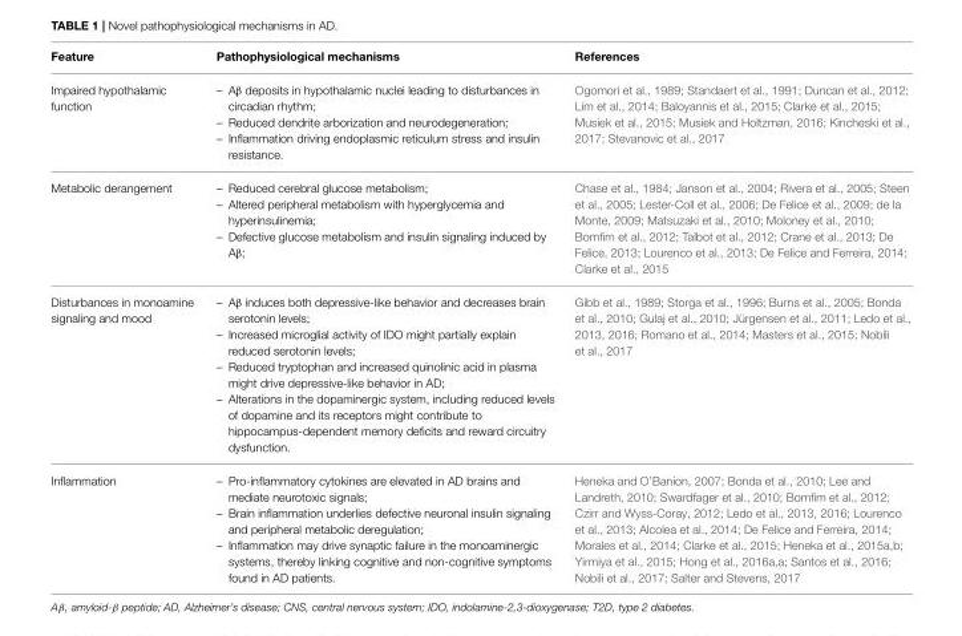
<table><thead><tr><td>Feature</td><td>Pathophysiological mechanisms</td><td>References</td></tr></thead><tbody><tr><td>Impaired hypothalamic function</td><td>– Aβ deposits in hypothalamic nuclei leading to disturbances in circadian rhythm; – Reduced dendrite arborization and neurodegeneration; – Inflammation driving endoplasmic reticulum stress and insulin resistance.</td><td>Ogomori et al., 1989; Standaert et al., 1991; Duncan et al., 2012; Lim et al., 2014; Baloyannis et al., 2015; Clarke et al., 2015; Musiek et al., 2015; Musiek and Holtzman, 2016; Kincheski et al., 2017; Stevanovic et al., 2017</td></tr><tr><td>Metabolic derangement</td><td>– Reduced cerebral glucose metabolism; – Altered peripheral metabolism with hyperglycemia and hyperinsulinemia; – Defective glucose metabolism and insulin signaling induced by Aβ;</td><td>Chase et al., 1984; Janson et al., 2004; Rivera et al., 2005; Steen et al., 2005; Lester-Coll et al., 2006; De Felice et al., 2009; de la Monte, 2009; Matsuzaki et al., 2010; Moloney et al., 2010; Bomfim et al., 2012; Talbot et al., 2012; Crane et al., 2013; De Felice, 2013; Lourenco et al., 2013; De Felice and Ferreira, 2014; Clarke et al., 2015</td></tr><tr><td>Disturbances in monoamine signaling and mood</td><td>– Aβ induces both depressive-like behavior and decreases brain serotonin levels; – Increased microglial activity of IDO might partially explain reduced serotonin levels; – Reduced tryptophan and increased quinolinic acid in plasma might drive depressive-like behavior in AD; – Alterations in the dopaminergic system, including reduced levels of dopamine and its receptors might contribute to hippocampus-dependent memory deficits and reward circuitry dysfunction.</td><td>Gibb et al., 1989; Storga et al., 1996; Burns et al., 2005; Bonda et al., 2010; Gulaj et al., 2010; Jürgensen et al., 2011; Ledo et al., 2013, 2016; Romano et al., 2014; Masters et al., 2015; Nobili et al., 2017</td></tr><tr><td>Inflammation</td><td>– Pro-inflammatory cytokines are elevated in AD brains and mediate neurotoxic signals; – Brain inflammation underlies defective neuronal insulin signaling and peripheral metabolic deregulation; – Inflammation may drive synaptic failure in the monoaminergic systems, thereby linking cognitive and non-cognitive symptoms found in AD patients.</td><td>Heneka and O’Banion, 2007; Bonda et al., 2010; Lee and Landreth, 2010; Swardfager et al., 2010; Bomfim et al., 2012; Czirr and Wyss-Coray, 2012; Ledo et al., 2013, 2016; Lourenco et al., 2013; Alcolea et al., 2014; De Felice and Ferreira, 2014; Morales et al., 2014; Clarke et al., 2015; Heneka et al., 2015a,b; Yirmiya et al., 2015; Hong et al., 2016a,a; Santos et al., 2016; Nobili et al., 2017; Salter and Stevens, 2017</td></tr></tbody></table>